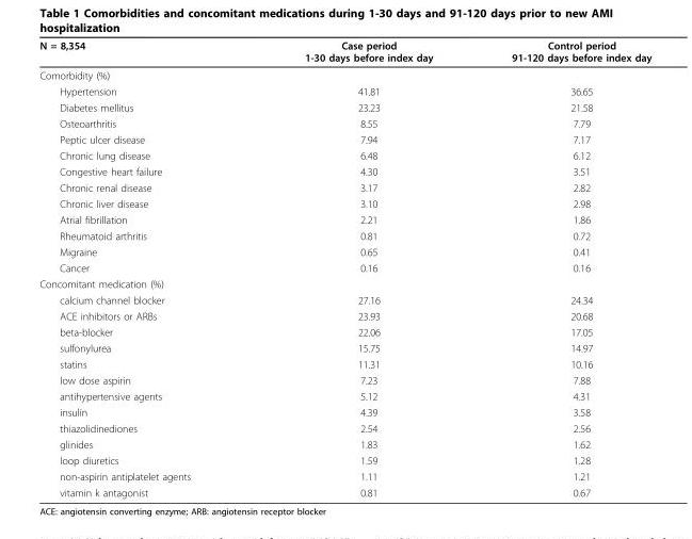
<table><thead><tr><td>N = 8,354</td><td>Case period 1-30 days before index day</td><td>Control period 91-120 days before index day</td></tr></thead><tbody><tr><td colspan="3">Comorbidity (%)</td></tr><tr><td>Hypertension</td><td>41.81</td><td>36.65</td></tr><tr><td>Diabetes mellitus</td><td>23.23</td><td>21.58</td></tr><tr><td>Osteoarthritis</td><td>8.55</td><td>7.79</td></tr><tr><td>Peptic ulcer disease</td><td>7.94</td><td>7.17</td></tr><tr><td>Chronic lung disease</td><td>6.48</td><td>6.12</td></tr><tr><td>Congestive heart failure</td><td>4.30</td><td>3.51</td></tr><tr><td>Chronic renal disease</td><td>3.17</td><td>2.82</td></tr><tr><td>Chronic liver disease</td><td>3.10</td><td>2.98</td></tr><tr><td>Atrial fibrillation</td><td>2.21</td><td>1.86</td></tr><tr><td>Rheumatoid arthritis</td><td>0.81</td><td>0.72</td></tr><tr><td>Migraine</td><td>0.65</td><td>0.41</td></tr><tr><td>Cancer</td><td>0.16</td><td>0.16</td></tr><tr><td colspan="3">Concomitant medication (%)</td></tr><tr><td>calcium channel blocker</td><td>27.16</td><td>24.34</td></tr><tr><td>ACE inhibitors or ARBs</td><td>23.93</td><td>20.68</td></tr><tr><td>beta-blocker</td><td>22.06</td><td>17.05</td></tr><tr><td>sulfonylurea</td><td>15.75</td><td>14.97</td></tr><tr><td>statins</td><td>11.31</td><td>10.16</td></tr><tr><td>low dose aspirin</td><td>7.23</td><td>7.88</td></tr><tr><td>antihypertensive agents</td><td>5.12</td><td>4.31</td></tr><tr><td>insulin</td><td>4.39</td><td>3.58</td></tr><tr><td>thiazolidinediones</td><td>2.54</td><td>2.56</td></tr><tr><td>glinides</td><td>1.83</td><td>1.62</td></tr><tr><td>loop diuretics</td><td>1.59</td><td>1.28</td></tr><tr><td>non-aspirin antiplatelet agents</td><td>1.11</td><td>1.21</td></tr><tr><td>vitamin k antagonist</td><td>0.81</td><td>0.67</td></tr></tbody></table>